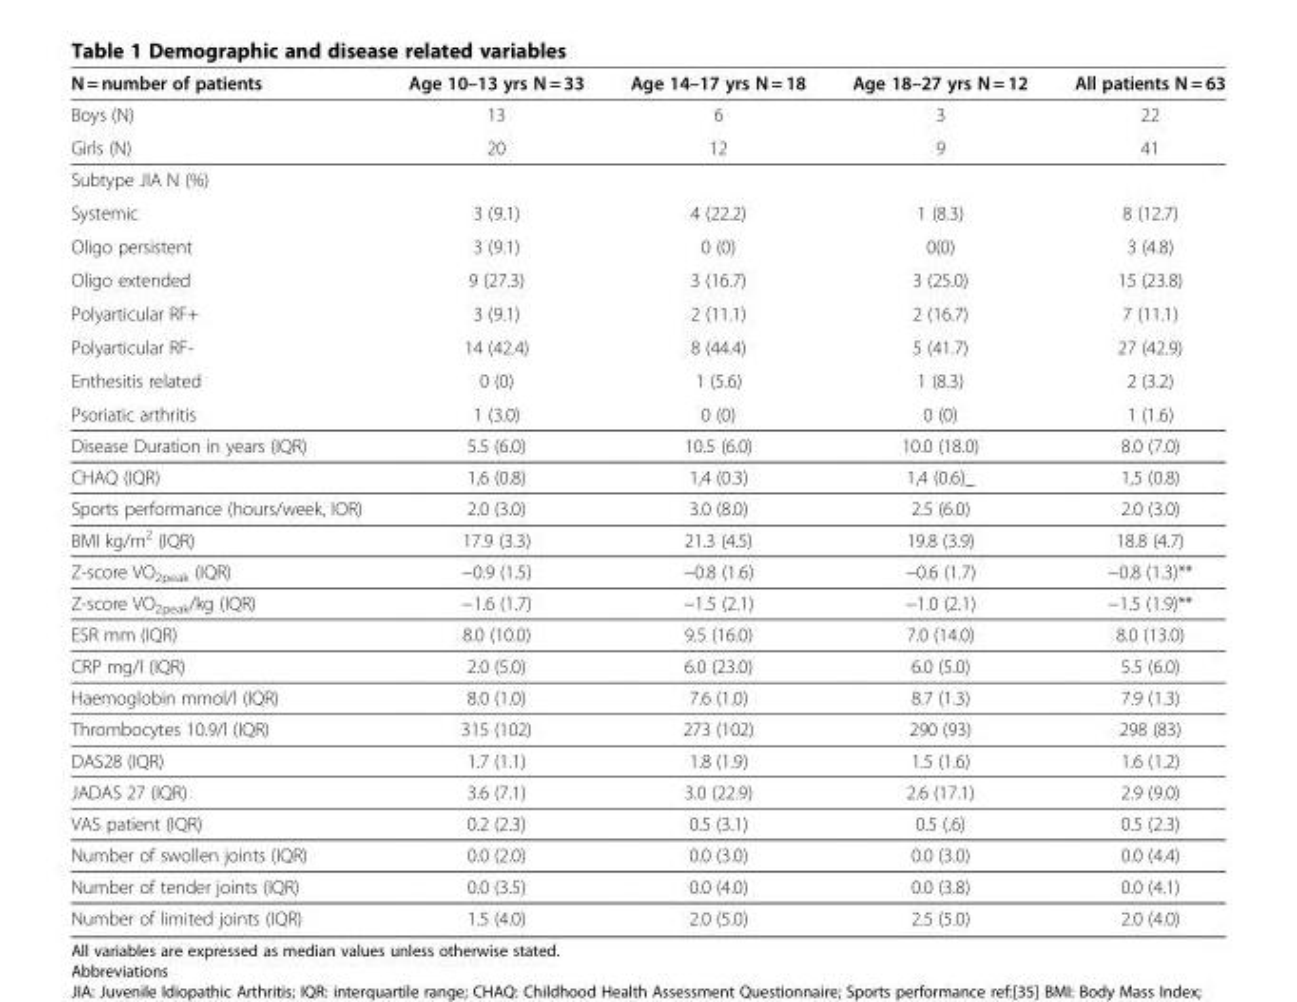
<table><thead><tr><td>N = number of patients</td><td>Age 10–13 yrs N = 33</td><td>Age 14–17 yrs N = 18</td><td>Age 18–27 yrs N = 12</td><td>All patients N = 63</td></tr></thead><tbody><tr><td>Boys (N)</td><td>13</td><td>6</td><td>3</td><td>22</td></tr><tr><td>Girls (N)</td><td>20</td><td>12</td><td>9</td><td>41</td></tr><tr><td colspan="5">Subtype JIA N (%)</td></tr><tr><td>Systemic</td><td>3 (9.1)</td><td>4 (22.2)</td><td>1 (8.3)</td><td>8 (12.7)</td></tr><tr><td>Oligo persistent</td><td>3 (9.1)</td><td>0 (0)</td><td>0(0)</td><td>3 (4.8)</td></tr><tr><td>Oligo extended</td><td>9 (27.3)</td><td>3 (16.7)</td><td>3 (25.0)</td><td>15 (23.8)</td></tr><tr><td>Polyarticular RF+</td><td>3 (9.1)</td><td>2 (11.1)</td><td>2 (16.7)</td><td>7 (11.1)</td></tr><tr><td>Polyarticular RF-</td><td>14 (42.4)</td><td>8 (44.4)</td><td>5 (41.7)</td><td>27 (42.9)</td></tr><tr><td>Enthesitis related</td><td>0 (0)</td><td>1 (5.6)</td><td>1 (8.3)</td><td>2 (3.2)</td></tr><tr><td>Psoriatic arthritis</td><td>1 (3.0)</td><td>0 (0)</td><td>0 (0)</td><td>1 (1.6)</td></tr><tr><td>Disease Duration in years (IQR)</td><td>5.5 (6.0)</td><td>10.5 (6.0)</td><td>10.0 (18.0)</td><td>8.0 (7.0)</td></tr><tr><td>CHAQ (IQR)</td><td>1,6 (0.8)</td><td>1,4 (0.3)</td><td>1,4 (0.6)_</td><td>1,5 (0.8)</td></tr><tr><td>Sports performance (hours/week, IOR)</td><td>2.0 (3.0)</td><td>3.0 (8.0)</td><td>2.5 (6.0)</td><td>2.0 (3.0)</td></tr><tr><td>BMI kg/m<sup>2</sup> (IQR)</td><td>17.9 (3.3)</td><td>21.3 (4.5)</td><td>19.8 (3.9)</td><td>18.8 (4.7)</td></tr><tr><td>Z-score VO<sub>2peak</sub> (IQR)</td><td>−0.9 (1.5)</td><td>−0.8 (1.6)</td><td>−0.6 (1.7)</td><td>−0.8 (1.3)**</td></tr><tr><td>Z-score VO<sub>2peak</sub>/kg (IQR)</td><td>−1.6 (1.7)</td><td>−1.5 (2.1)</td><td>−1.0 (2.1)</td><td>−1.5 (1.9)**</td></tr><tr><td>ESR mm (IQR)</td><td>8.0 (10.0)</td><td>9.5 (16.0)</td><td>7.0 (14.0)</td><td>8.0 (13.0)</td></tr><tr><td>CRP mg/l (IQR)</td><td>2.0 (5.0)</td><td>6.0 (23.0)</td><td>6.0 (5.0)</td><td>5.5 (6.0)</td></tr><tr><td>Haemoglobin mmol/l (IQR)</td><td>8.0 (1.0)</td><td>7.6 (1.0)</td><td>8.7 (1.3)</td><td>7.9 (1.3)</td></tr><tr><td>Thrombocytes 10.9/l (IQR)</td><td>315 (102)</td><td>273 (102)</td><td>290 (93)</td><td>298 (83)</td></tr><tr><td>DAS28 (IQR)</td><td>1.7 (1.1)</td><td>1.8 (1.9)</td><td>1.5 (1.6)</td><td>1.6 (1.2)</td></tr><tr><td>JADAS 27 (IQR)</td><td>3.6 (7.1)</td><td>3.0 (22.9)</td><td>2.6 (17.1)</td><td>2.9 (9.0)</td></tr><tr><td>VAS patient (IQR)</td><td>0.2 (2.3)</td><td>0.5 (3.1)</td><td>0.5 (.6)</td><td>0.5 (2.3)</td></tr><tr><td>Number of swollen joints (IQR)</td><td>0.0 (2.0)</td><td>0.0 (3.0)</td><td>0.0 (3.0)</td><td>0.0 (4.4)</td></tr><tr><td>Number of tender joints (IQR)</td><td>0.0 (3.5)</td><td>0.0 (4.0)</td><td>0.0 (3.8)</td><td>0.0 (4.1)</td></tr><tr><td>Number of limited joints (IQR)</td><td>1.5 (4.0)</td><td>2.0 (5.0)</td><td>2.5 (5.0)</td><td>2.0 (4.0)</td></tr></tbody></table>